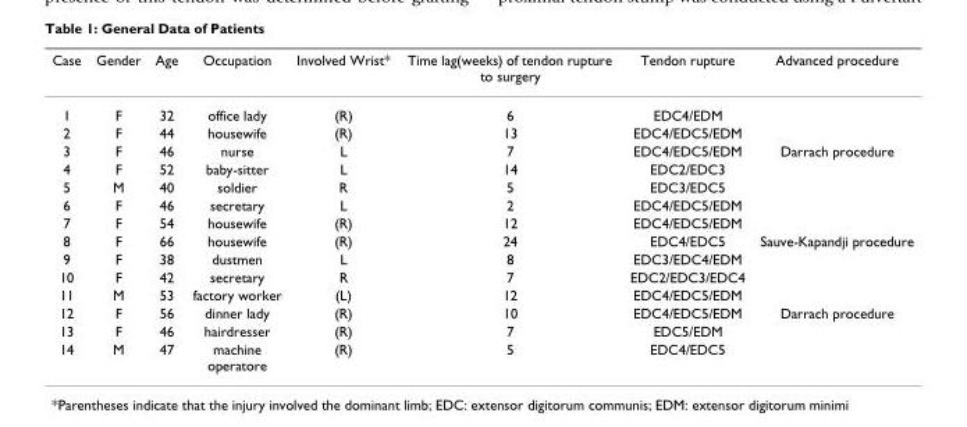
<table><thead><tr><td>Case</td><td>Gender</td><td>Age</td><td>Occupation</td><td>Involved Wrist*</td><td>Time lag(weeks) of tendon rupture to surgery</td><td>Tendon rupture</td><td>Advanced procedure</td></tr></thead><tbody><tr><td>1</td><td>F</td><td>32</td><td>office lady</td><td>(R)</td><td>6</td><td>EDC4/EDM</td><td></td></tr><tr><td>2</td><td>F</td><td>44</td><td>housewife</td><td>(R)</td><td>13</td><td>EDC4/EDC5/EDM</td><td></td></tr><tr><td>3</td><td>F</td><td>46</td><td>nurse</td><td>L</td><td>7</td><td>EDC4/EDC5/EDM</td><td>Darrach procedure</td></tr><tr><td>4</td><td>F</td><td>52</td><td>baby-sitter</td><td>L</td><td>14</td><td>EDC2/EDC3</td><td></td></tr><tr><td>5</td><td>M</td><td>40</td><td>soldier</td><td>R</td><td>5</td><td>EDC3/EDC5</td><td></td></tr><tr><td>6</td><td>F</td><td>46</td><td>secretary</td><td>L</td><td>2</td><td>EDC4/EDC5/EDM</td><td></td></tr><tr><td>7</td><td>F</td><td>54</td><td>housewife</td><td>(R)</td><td>12</td><td>EDC4/EDC5/EDM</td><td></td></tr><tr><td>8</td><td>F</td><td>66</td><td>housewife</td><td>(R)</td><td>24</td><td>EDC4/EDC5</td><td>Sauve-Kapandji procedure</td></tr><tr><td>9</td><td>F</td><td>38</td><td>dustmen</td><td>L</td><td>8</td><td>EDC3/EDC4/EDM</td><td></td></tr><tr><td>10</td><td>F</td><td>42</td><td>secretary</td><td>R</td><td>7</td><td>EDC2/EDC3/EDC4</td><td></td></tr><tr><td>11</td><td>M</td><td>53</td><td>factory worker</td><td>(L)</td><td>12</td><td>EDC4/EDC5/EDM</td><td></td></tr><tr><td>12</td><td>F</td><td>56</td><td>dinner lady</td><td>(R)</td><td>10</td><td>EDC4/EDC5/EDM</td><td>Darrach procedure</td></tr><tr><td>13</td><td>F</td><td>46</td><td>hairdresser</td><td>(R)</td><td>7</td><td>EDC5/EDM</td><td></td></tr><tr><td>14</td><td>M</td><td>47</td><td>machine operatore</td><td>(R)</td><td>5</td><td>EDC4/EDC5</td><td></td></tr></tbody></table>